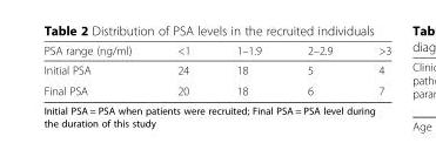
<table><thead><tr><td>PSA range (ng/ml)</td><td>&lt;1</td><td>1–1.9</td><td>2–2.9</td><td>&gt;3</td></tr></thead><tbody><tr><td>Initial PSA</td><td>24</td><td>18</td><td>5</td><td>4</td></tr><tr><td>Final PSA</td><td>20</td><td>18</td><td>6</td><td>7</td></tr></tbody></table>